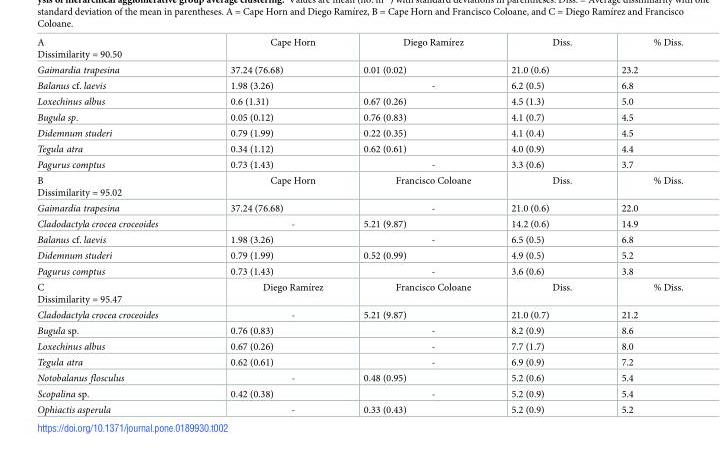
<table><tbody><tr><td>A Dissimilarity = 90.50</td><td>Cape Horn</td><td>Diego Ramı´rez</td><td>Diss.</td><td>% Diss.</td></tr><tr><td>Gaimardia trapesina</td><td>37.24 (76.68)</td><td>0.01 (0.02)</td><td>21.0 (0.6)</td><td>23.2</td></tr><tr><td>Balanus cf. laevis</td><td>1.98 (3.26)</td><td>-</td><td>6.2 (0.5)</td><td>6.8</td></tr><tr><td>Loxechinus albus</td><td>0.6 (1.31)</td><td>0.67 (0.26)</td><td>4.5 (1.3)</td><td>5.0</td></tr><tr><td>Bugula sp.</td><td>0.05 (0.12)</td><td>0.76 (0.83)</td><td>4.1 (0.7)</td><td>4.5</td></tr><tr><td>Didemnum studeri</td><td>0.79 (1.99)</td><td>0.22 (0.35)</td><td>4.1 (0.4)</td><td>4.5</td></tr><tr><td>Tegula atra</td><td>0.34 (1.12)</td><td>0.62 (0.61)</td><td>4.0 (0.9)</td><td>4.4</td></tr><tr><td>Pagurus comptus</td><td>0.73 (1.43)</td><td>-</td><td>3.3 (0.6)</td><td>3.7</td></tr><tr><td>B Dissimilarity = 95.02</td><td>Cape Horn</td><td>Francisco Coloane</td><td>Diss.</td><td>% Diss.</td></tr><tr><td>Gaimardia trapesina</td><td>37.24 (76.68)</td><td>-</td><td>21.0 (0.6)</td><td>22.0</td></tr><tr><td>Cladodactyla crocea croceoides</td><td>-</td><td>5.21 (9.87)</td><td>14.2 (0.6)</td><td>14.9</td></tr><tr><td>Balanus cf. laevis</td><td>1.98 (3.26)</td><td>-</td><td>6.5 (0.5)</td><td>6.8</td></tr><tr><td>Didemnum studeri</td><td>0.79 (1.99)</td><td>0.52 (0.99)</td><td>4.9 (0.5)</td><td>5.2</td></tr><tr><td>Pagurus comptus</td><td>0.73 (1.43)</td><td>-</td><td>3.6 (0.6)</td><td>3.8</td></tr><tr><td>C Dissimilarity = 95.47</td><td>Diego Ramı´rez</td><td>Francisco Coloane</td><td>Diss.</td><td>% Diss.</td></tr><tr><td>Cladodactyla crocea croceoides</td><td>-</td><td>5.21 (9.87)</td><td>21.0 (0.7)</td><td>21.2</td></tr><tr><td>Bugula sp.</td><td>0.76 (0.83)</td><td>-</td><td>8.2 (0.9)</td><td>8.6</td></tr><tr><td>Loxechinus albus</td><td>0.67 (0.26)</td><td>-</td><td>7.7 (1.7)</td><td>8.0</td></tr><tr><td>Tegula atra</td><td>0.62 (0.61)</td><td>-</td><td>6.9 (0.9)</td><td>7.2</td></tr><tr><td>Notobalanus flosculus</td><td>-</td><td>0.48 (0.95)</td><td>5.2 (0.6)</td><td>5.4</td></tr><tr><td>Scopalina sp.</td><td>0.42 (0.38)</td><td>-</td><td>5.2 (0.9)</td><td>5.4</td></tr><tr><td>Ophiactis asperula</td><td>-</td><td>0.33 (0.43)</td><td>5.2 (0.9)</td><td>5.2</td></tr></tbody></table>